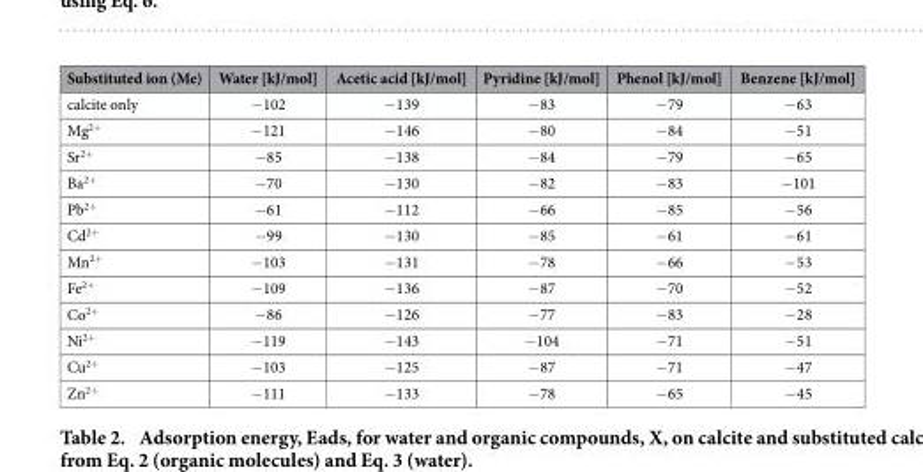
<table><thead><tr><td>Substituted ion (Me)</td><td>Water [kJ/mol]</td><td>Acetic acid [kJ/mol]</td><td>Pyridine [kJ/mol]</td><td>Phenol [kJ/mol]</td><td>Benzene [kJ/mol]</td></tr></thead><tbody><tr><td>calcite only</td><td>− 102</td><td>− 139</td><td>− 83</td><td>− 79</td><td>− 63</td></tr><tr><td>Mg<sup>2+</sup></td><td>− 121</td><td>− 146</td><td>− 80</td><td>− 84</td><td>− 51</td></tr><tr><td>Sr<sup>2+</sup></td><td>− 85</td><td>− 138</td><td>− 84</td><td>− 79</td><td>− 65</td></tr><tr><td>Ba<sup>2+</sup></td><td>− 70</td><td>− 130</td><td>− 82</td><td>− 83</td><td>− 101</td></tr><tr><td>Pb<sup>2+</sup></td><td>− 61</td><td>− 112</td><td>− 66</td><td>− 85</td><td>− 56</td></tr><tr><td>Cd<sup>2+</sup></td><td>− 99</td><td>− 130</td><td>− 85</td><td>− 61</td><td>− 61</td></tr><tr><td>Mn<sup>2+</sup></td><td>− 103</td><td>− 131</td><td>− 78</td><td>− 66</td><td>− 53</td></tr><tr><td>Fe<sup>2+</sup></td><td>− 109</td><td>− 136</td><td>− 87</td><td>− 70</td><td>− 52</td></tr><tr><td>Co<sup>2+</sup></td><td>− 86</td><td>− 126</td><td>− 77</td><td>− 83</td><td>− 28</td></tr><tr><td>Ni<sup>2+</sup></td><td>− 119</td><td>− 143</td><td>− 104</td><td>− 71</td><td>− 51</td></tr><tr><td>Cu<sup>2+</sup></td><td>− 103</td><td>− 125</td><td>− 87</td><td>− 71</td><td>− 47</td></tr><tr><td>Zn<sup>2+</sup></td><td>− 111</td><td>− 133</td><td>− 78</td><td>− 65</td><td>− 45</td></tr></tbody></table>